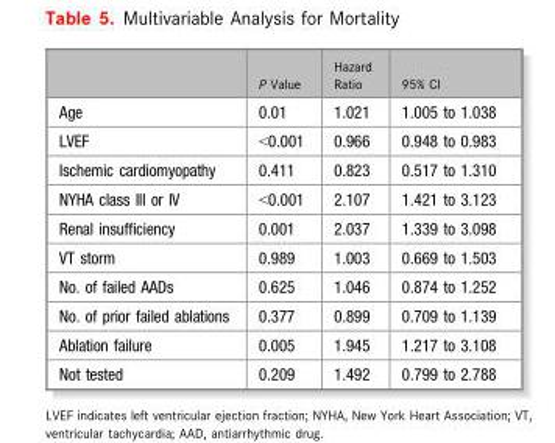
<table><thead><tr><td></td><td>P Value</td><td>Hazard Ratio</td><td>95% CI</td></tr></thead><tbody><tr><td>Age</td><td>0.01</td><td>1.021</td><td>1.005 to 1.038</td></tr><tr><td>LVEF</td><td>&lt;0.001</td><td>0.966</td><td>0.948 to 0.983</td></tr><tr><td>Ischemic cardiomyopathy</td><td>0.411</td><td>0.823</td><td>0.517 to 1.310</td></tr><tr><td>NYHA class III or IV</td><td>&lt;0.001</td><td>2.107</td><td>1.421 to 3.123</td></tr><tr><td>Renal insufficiency</td><td>0.001</td><td>2.037</td><td>1.339 to 3.098</td></tr><tr><td>VT storm</td><td>0.989</td><td>1.003</td><td>0.669 to 1.503</td></tr><tr><td>No. of failed AADs</td><td>0.625</td><td>1.046</td><td>0.874 to 1.252</td></tr><tr><td>No. of prior failed ablations</td><td>0.377</td><td>0.899</td><td>0.709 to 1.139</td></tr><tr><td>Ablation failure</td><td>0.005</td><td>1.945</td><td>1.217 to 3.108</td></tr><tr><td>Not tested</td><td>0.209</td><td>1.492</td><td>0.799 to 2.788</td></tr></tbody></table>